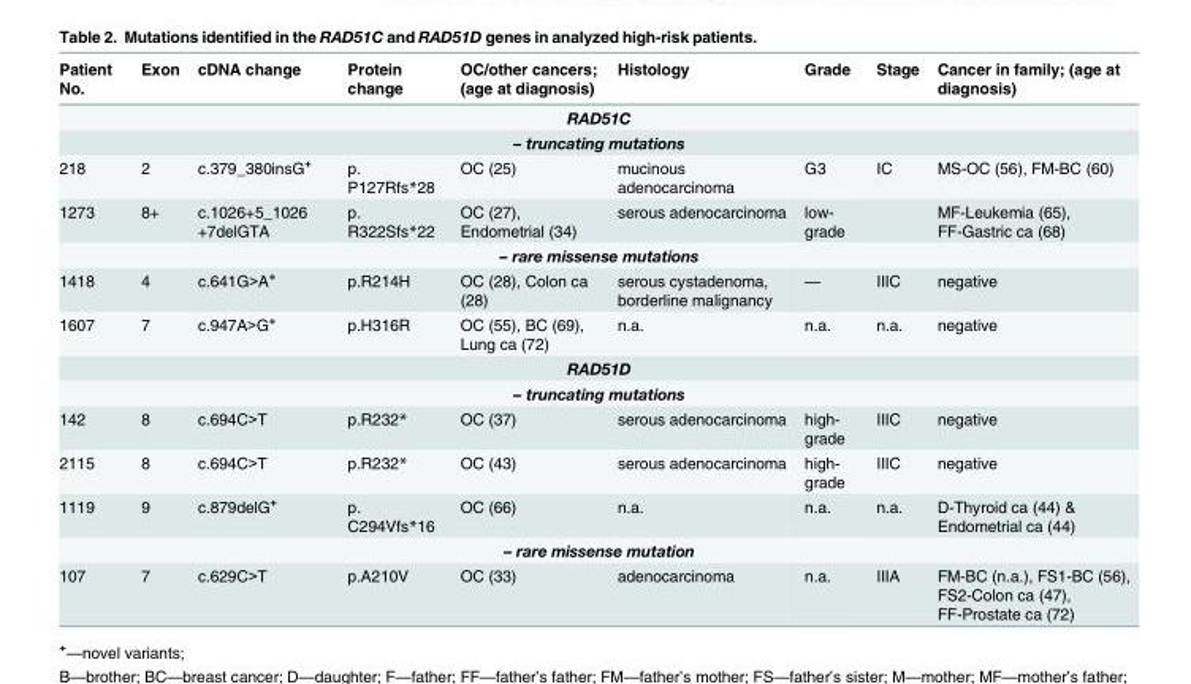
<table><thead><tr><td>Patient No.</td><td>Exon</td><td>cDNA change</td><td>Protein change</td><td>OC/other cancers; (age at diagnosis)</td><td>Histology</td><td>Grade</td><td>Stage</td><td>Cancer in family; (age at diagnosis)</td></tr></thead><tbody><tr><td colspan="9">RAD51C</td></tr><tr><td colspan="9">– truncating mutations</td></tr><tr><td>218</td><td>2</td><td>c.379_380insG<sup>+</sup></td><td>p. P127Rfs*28</td><td>OC (25)</td><td>mucinous adenocarcinoma</td><td>G3</td><td>IC</td><td>MS-OC (56), FM-BC (60)</td></tr><tr><td>1273</td><td>8+</td><td>c.1026+5_1026 +7delGTA</td><td>p. R322Sfs*22</td><td>OC (27), Endometrial (34)</td><td>serous adenocarcinoma</td><td>low- grade</td><td></td><td>MF-Leukemia (65), FF-Gastric ca (68)</td></tr><tr><td colspan="9">– rare missense mutations</td></tr><tr><td>1418</td><td>4</td><td>c.641G&gt;A<sup>+</sup></td><td>p.R214H</td><td>OC (28), Colon ca (28)</td><td>serous cystadenoma, borderline malignancy</td><td>—</td><td>IIIC</td><td>negative</td></tr><tr><td>1607</td><td>7</td><td>c.947A&gt;G<sup>+</sup></td><td>p.H316R</td><td>OC (55), BC (69), Lung ca (72)</td><td>n.a.</td><td>n.a.</td><td>n.a.</td><td>negative</td></tr><tr><td colspan="9">RAD51D</td></tr><tr><td colspan="9">– truncating mutations</td></tr><tr><td>142</td><td>8</td><td>c.694C&gt;T</td><td>p.R232*</td><td>OC (37)</td><td>serous adenocarcinoma</td><td>high- grade</td><td>IIIC</td><td>negative</td></tr><tr><td>2115</td><td>8</td><td>c.694C&gt;T</td><td>p.R232*</td><td>OC (43)</td><td>serous adenocarcinoma</td><td>high- grade</td><td>IIIC</td><td>negative</td></tr><tr><td>1119</td><td>9</td><td>c.879delG<sup>+</sup></td><td>p. C294Vfs*16</td><td>OC (66)</td><td>n.a.</td><td>n.a.</td><td>n.a.</td><td>D-Thyroid ca (44) &amp; Endometrial ca (44)</td></tr><tr><td colspan="9">– rare missense mutation</td></tr><tr><td>107</td><td>7</td><td>c.629C&gt;T</td><td>p.A210V</td><td>OC (33)</td><td>adenocarcinoma</td><td>n.a.</td><td>IIIA</td><td>FM-BC (n.a.), FS1-BC (56), FS2-Colon ca (47), FF-Prostate ca (72)</td></tr></tbody></table>